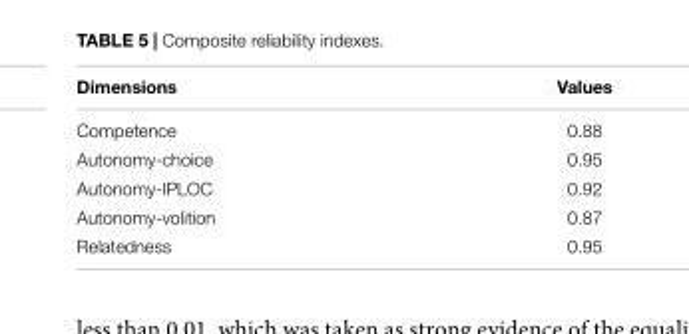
<table><thead><tr><td>Dimensions</td><td>Values</td></tr></thead><tbody><tr><td>Competence</td><td>0.88</td></tr><tr><td>Autonomy-choice</td><td>0.95</td></tr><tr><td>Autonomy-IPLOC</td><td>0.92</td></tr><tr><td>Autonomy-volition</td><td>0.87</td></tr><tr><td>Relatedness</td><td>0.95</td></tr></tbody></table>